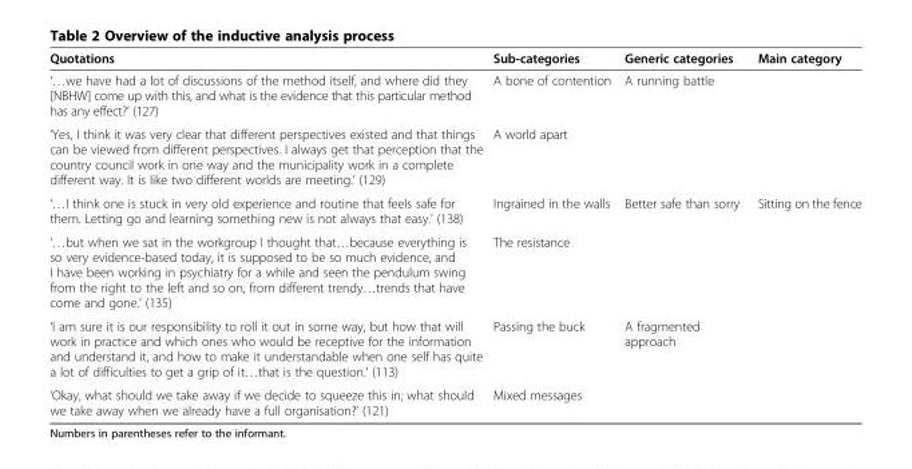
<table><thead><tr><td>Quotations</td><td>Sub-categories</td><td>Generic categories</td><td>Main category</td></tr></thead><tbody><tr><td>‘…we have had a lot of discussions of the method itself, and where did they [NBHW] come up with this, and what is the evidence that this particular method has any effect?’ (127)</td><td>A bone of contention</td><td rowspan="2">A running battle</td><td></td></tr><tr><td>‘Yes, I think it was very clear that different perspectives existed and that things can be viewed from different perspectives. I always get that perception that the country council work in one way and the municipality work in a complete different way. It is like two different worlds are meeting.’ (129)</td><td>A world apart</td><td></td></tr><tr><td>‘…I think one is stuck in very old experience and routine that feels safe for them. Letting go and learning something new is not always that easy.’ (138)</td><td>Ingrained in the walls</td><td rowspan="2">Better safe than sorry</td><td>Sitting on the fence</td></tr><tr><td>‘…but when we sat in the workgroup I thought that…because everything is so very evidence-based today, it is supposed to be so much evidence, and I have been working in psychiatry for a while and seen the pendulum swing from the right to the left and so on, from different trendy…trends that have come and gone.’ (135)</td><td>The resistance</td><td></td></tr><tr><td>‘I am sure it is our responsibility to roll it out in some way, but how that will work in practice and which ones who would be receptive for the information and understand it, and how to make it understandable when one self has quite a lot of difficulties to get a grip of it…that is the question.’ (113)</td><td>Passing the buck</td><td>A fragmented approach</td><td></td></tr><tr><td>‘Okay, what should we take away if we decide to squeeze this in; what should we take away when we already have a full organisation?’ (121)</td><td>Mixed messages</td><td></td><td></td></tr></tbody></table>